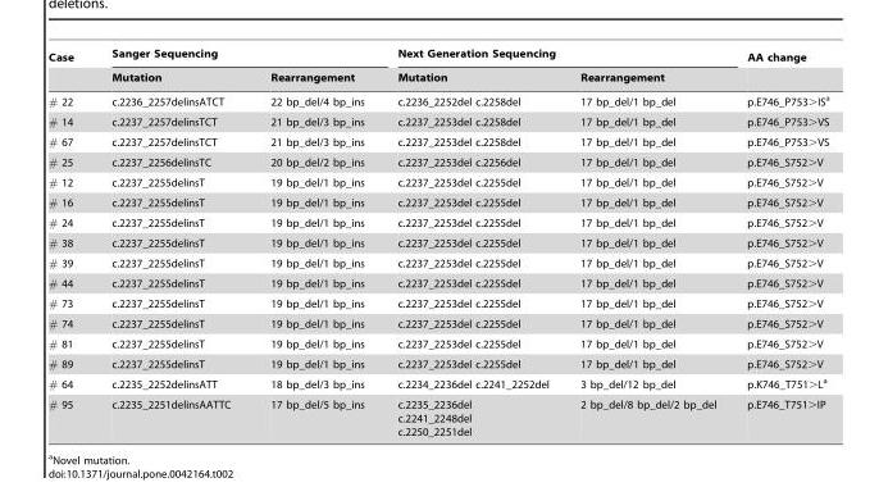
<table><thead><tr><td rowspan="2">Case</td><td colspan="2">Sanger Sequencing</td><td colspan="2">Next Generation Sequencing</td><td rowspan="2">AA change</td></tr><tr><td>Mutation</td><td>Rearrangement</td><td>Mutation</td><td>Rearrangement</td></tr></thead><tbody><tr><td># 22</td><td>c.2236_2257delinsATCT</td><td>22 bp_del/4 bp_ins</td><td>c.2236_2252del c.2258del</td><td>17 bp_del/1 bp_del</td><td>p.E746_P753&gt;IS<sup>a</sup></td></tr><tr><td># 14</td><td>c.2237_2257delinsTCT</td><td>21 bp_del/3 bp_ins</td><td>c.2237_2253del c.2258del</td><td>17 bp_del/1 bp_del</td><td>p.E746_P753&gt;VS</td></tr><tr><td># 67</td><td>c.2237_2257delinsTCT</td><td>21 bp_del/3 bp_ins</td><td>c.2237_2253del c.2258del</td><td>17 bp_del/1 bp_del</td><td>p.E746_P753&gt;VS</td></tr><tr><td># 25</td><td>c.2237_2256delinsTC</td><td>20 bp_del/2 bp_ins</td><td>c.2237_2253del c.2256del</td><td>17 bp_del/1 bp_del</td><td>p.E746_S752&gt;V</td></tr><tr><td># 12</td><td>c.2237_2255delinsT</td><td>19 bp_del/1 bp_ins</td><td>c.2237_2253del c.2255del</td><td>17 bp_del/1 bp_del</td><td>p.E746_S752&gt;V</td></tr><tr><td># 16</td><td>c.2237_2255delinsT</td><td>19 bp_del/1 bp_ins</td><td>c.2237_2253del c.2255del</td><td>17 bp_del/1 bp_del</td><td>p.E746_S752&gt;V</td></tr><tr><td># 24</td><td>c.2237_2255delinsT</td><td>19 bp_del/1 bp_ins</td><td>c.2237_2253del c.2255del</td><td>17 bp_del/1 bp_del</td><td>p.E746_S752&gt;V</td></tr><tr><td># 38</td><td>c.2237_2255delinsT</td><td>19 bp_del/1 bp_ins</td><td>c.2237_2253del c.2255del</td><td>17 bp_del/1 bp_del</td><td>p.E746_S752&gt;V</td></tr><tr><td># 39</td><td>c.2237_2255delinsT</td><td>19 bp_del/1 bp_ins</td><td>c.2237_2253del c.2255del</td><td>17 bp_del/1 bp_del</td><td>p.E746_S752&gt;V</td></tr><tr><td># 44</td><td>c.2237_2255delinsT</td><td>19 bp_del/1 bp_ins</td><td>c.2237_2253del c.2255del</td><td>17 bp_del/1 bp_del</td><td>p.E746_S752&gt;V</td></tr><tr><td># 73</td><td>c.2237_2255delinsT</td><td>19 bp_del/1 bp_ins</td><td>c.2237_2253del c.2255del</td><td>17 bp_del/1 bp_del</td><td>p.E746_S752&gt;V</td></tr><tr><td># 74</td><td>c.2237_2255delinsT</td><td>19 bp_del/1 bp_ins</td><td>c.2237_2253del c.2255del</td><td>17 bp_del/1 bp_del</td><td>p.E746_S752&gt;V</td></tr><tr><td># 81</td><td>c.2237_2255delinsT</td><td>19 bp_del/1 bp_ins</td><td>c.2237_2253del c.2255del</td><td>17 bp_del/1 bp_del</td><td>p.E746_S752&gt;V</td></tr><tr><td># 89</td><td>c.2237_2255delinsT</td><td>19 bp_del/1 bp_ins</td><td>c.2237_2253del c.2255del</td><td>17 bp_del/1 bp_del</td><td>p.E746_S752&gt;V</td></tr><tr><td># 64</td><td>c.2235_2252delinsATT</td><td>18 bp_del/3 bp_ins</td><td>c.2234_2236del c.2241_2252del</td><td>3 bp_del/12 bp_del</td><td>p.K746_T751&gt;L<sup>a</sup></td></tr><tr><td># 95</td><td>c.2235_2251delinsAATTC</td><td>17 bp_del/5 bp_ins</td><td>c.2235_2236del c.2241_2248del c.2250_2251del</td><td>2 bp_del/8 bp_del/2 bp_del</td><td>p.E746_T751&gt;IP</td></tr></tbody></table>